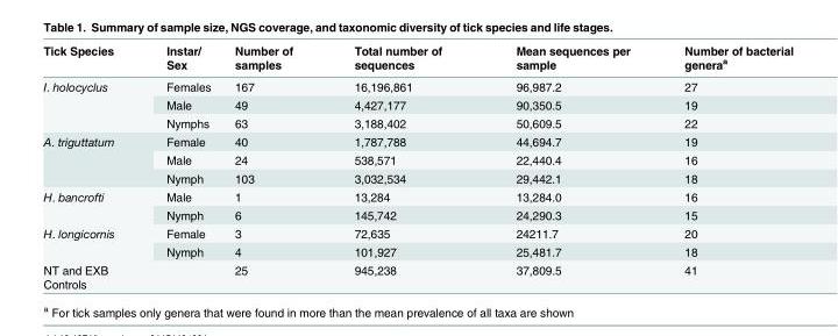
<table><thead><tr><td>Tick Species</td><td>Instar/ Sex</td><td>Number of samples</td><td>Total number of sequences</td><td>Mean sequences per sample</td><td>Number of bacterial genera<sup>a</sup></td></tr></thead><tbody><tr><td rowspan="3">I. holocyclus</td><td>Females</td><td>167</td><td>16,196,861</td><td>96,987.2</td><td>27</td></tr><tr><td>Male</td><td>49</td><td>4,427,177</td><td>90,350.5</td><td>19</td></tr><tr><td>Nymphs</td><td>63</td><td>3,188,402</td><td>50,609.5</td><td>22</td></tr><tr><td rowspan="3">A. triguttatum</td><td>Female</td><td>40</td><td>1,787,788</td><td>44,694.7</td><td>19</td></tr><tr><td>Male</td><td>24</td><td>538,571</td><td>22,440.4</td><td>16</td></tr><tr><td>Nymph</td><td>103</td><td>3,032,534</td><td>29,442.1</td><td>18</td></tr><tr><td rowspan="2">H. bancrofti</td><td>Male</td><td>1</td><td>13,284</td><td>13,284.0</td><td>16</td></tr><tr><td>Nymph</td><td>6</td><td>145,742</td><td>24,290.3</td><td>15</td></tr><tr><td rowspan="2">H. longicornis</td><td>Female</td><td>3</td><td>72,635</td><td>24211.7</td><td>20</td></tr><tr><td>Nymph</td><td>4</td><td>101,927</td><td>25,481.7</td><td>18</td></tr><tr><td>NT and EXB Controls</td><td></td><td>25</td><td>945,238</td><td>37,809.5</td><td>41</td></tr></tbody></table>